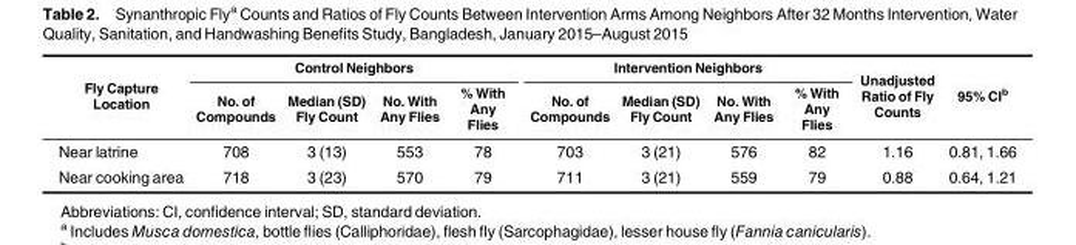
<table><thead><tr><td rowspan="2">Fly Capture Location</td><td colspan="4">Control Neighbors</td><td colspan="4">Intervention Neighbors</td><td rowspan="2">Unadjusted Ratio of Fly Counts</td><td rowspan="2">95% CI<sup>b</sup></td></tr><tr><td>No. of Compounds</td><td>Median (SD) Fly Count</td><td>No. With Any Flies</td><td>% With Any Flies</td><td>No. of Compounds</td><td>Median (SD) Fly Count</td><td>No. With Any Flies</td><td>% With Any Flies</td></tr></thead><tbody><tr><td>Near latrine</td><td>708</td><td>3 (13)</td><td>553</td><td>78</td><td>703</td><td>3 (21)</td><td>576</td><td>82</td><td>1.16</td><td>0.81, 1.66</td></tr><tr><td>Near cooking area</td><td>718</td><td>3 (23)</td><td>570</td><td>79</td><td>711</td><td>3 (21)</td><td>559</td><td>79</td><td>0.88</td><td>0.64, 1.21</td></tr></tbody></table>